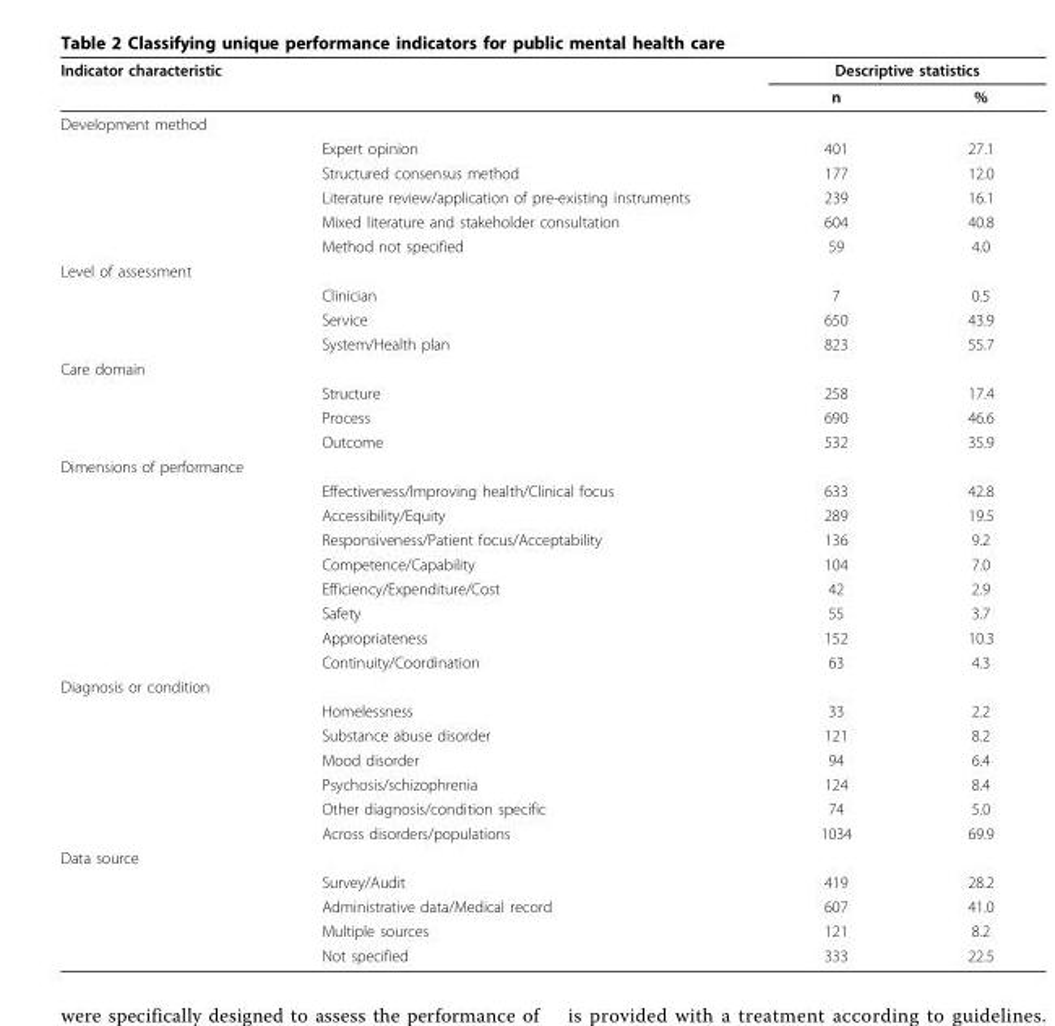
<table><thead><tr><td rowspan="2">Indicator characteristic</td><td rowspan="2"></td><td colspan="2">Descriptive statistics</td></tr><tr><td>n</td><td>%</td></tr></thead><tbody><tr><td colspan="4">Development method</td></tr><tr><td></td><td>Expert opinion</td><td>401</td><td>27.1</td></tr><tr><td></td><td>Structured consensus method</td><td>177</td><td>12.0</td></tr><tr><td></td><td>Literature review/application of pre-existing instruments</td><td>239</td><td>16.1</td></tr><tr><td></td><td>Mixed literature and stakeholder consultation</td><td>604</td><td>40.8</td></tr><tr><td></td><td>Method not specified</td><td>59</td><td>4.0</td></tr><tr><td colspan="4">Level of assessment</td></tr><tr><td></td><td>Clinician</td><td>7</td><td>0.5</td></tr><tr><td></td><td>Service</td><td>650</td><td>43.9</td></tr><tr><td></td><td>System/Health plan</td><td>823</td><td>55.7</td></tr><tr><td colspan="4">Care domain</td></tr><tr><td></td><td>Structure</td><td>258</td><td>17.4</td></tr><tr><td></td><td>Process</td><td>690</td><td>46.6</td></tr><tr><td></td><td>Outcome</td><td>532</td><td>35.9</td></tr><tr><td colspan="4">Dimensions of performance</td></tr><tr><td></td><td>Effectiveness/Improving health/Clinical focus</td><td>633</td><td>42.8</td></tr><tr><td></td><td>Accessibility/Equity</td><td>289</td><td>19.5</td></tr><tr><td></td><td>Responsiveness/Patient focus/Acceptability</td><td>136</td><td>9.2</td></tr><tr><td></td><td>Competence/Capability</td><td>104</td><td>7.0</td></tr><tr><td></td><td>Efficiency/Expenditure/Cost</td><td>42</td><td>2.9</td></tr><tr><td></td><td>Safety</td><td>55</td><td>3.7</td></tr><tr><td></td><td>Appropriateness</td><td>152</td><td>10.3</td></tr><tr><td></td><td>Continuity/Coordination</td><td>63</td><td>4.3</td></tr><tr><td colspan="4">Diagnosis or condition</td></tr><tr><td></td><td>Homelessness</td><td>33</td><td>2.2</td></tr><tr><td></td><td>Substance abuse disorder</td><td>121</td><td>8.2</td></tr><tr><td></td><td>Mood disorder</td><td>94</td><td>6.4</td></tr><tr><td></td><td>Psychosis/schizophrenia</td><td>124</td><td>8.4</td></tr><tr><td></td><td>Other diagnosis/condition specific</td><td>74</td><td>5.0</td></tr><tr><td></td><td>Across disorders/populations</td><td>1034</td><td>69.9</td></tr><tr><td colspan="4">Data source</td></tr><tr><td></td><td>Survey/Audit</td><td>419</td><td>28.2</td></tr><tr><td></td><td>Administrative data/Medical record</td><td>607</td><td>41.0</td></tr><tr><td></td><td>Multiple sources</td><td>121</td><td>8.2</td></tr><tr><td></td><td>Not specified</td><td>333</td><td>22.5</td></tr></tbody></table>